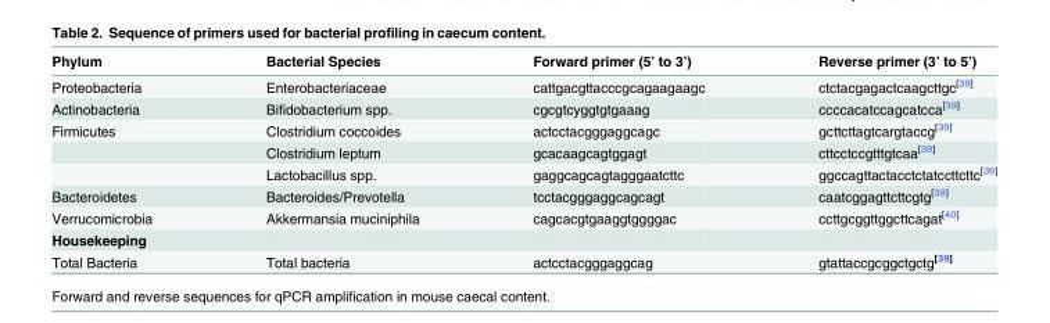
<table><thead><tr><td>Phylum</td><td>Bacterial Species</td><td>Forward primer (5’ to 3’)</td><td>Reverse primer (3’ to 5’)</td></tr></thead><tbody><tr><td>Proteobacteria</td><td>Enterobacteriaceae</td><td>cattgacgttacccgcagaagaagc</td><td>ctctacgagactcaagcttgc<sup>[39]</sup></td></tr><tr><td>Actinobacteria</td><td>Bifidobacterium spp.</td><td>cgcgtcyggtgtgaaag</td><td>ccccacatccagcatcca<sup>[39]</sup></td></tr><tr><td rowspan="3">Firmicutes</td><td>Clostridium coccoides</td><td>actcctacgggaggcagc</td><td>gcttcttagtcargtaccg<sup>[39]</sup></td></tr><tr><td>Clostridium leptum</td><td>gcacaagcagtggagt</td><td>cttcctccgtttgtcaa<sup>[39]</sup></td></tr><tr><td>Lactobacillus spp.</td><td>gaggcagcagtagggaatcttc</td><td>ggccagttactacctctatccttcttc<sup>[39]</sup></td></tr><tr><td>Bacteroidetes</td><td>Bacteroides/Prevotella</td><td>tcctacgggaggcagcagt</td><td>caatcggagttcttcgtg<sup>[39]</sup></td></tr><tr><td>Verrucomicrobia</td><td>Akkermansia muciniphila</td><td>cagcacgtgaaggtggggac</td><td>ccttgcggttggcttcagat<sup>[40]</sup></td></tr><tr><td colspan="4">Housekeeping</td></tr><tr><td>Total Bacteria</td><td>Total bacteria</td><td>actcctacgggaggcag</td><td>gtattaccgcggctgctg<sup>[39]</sup></td></tr></tbody></table>